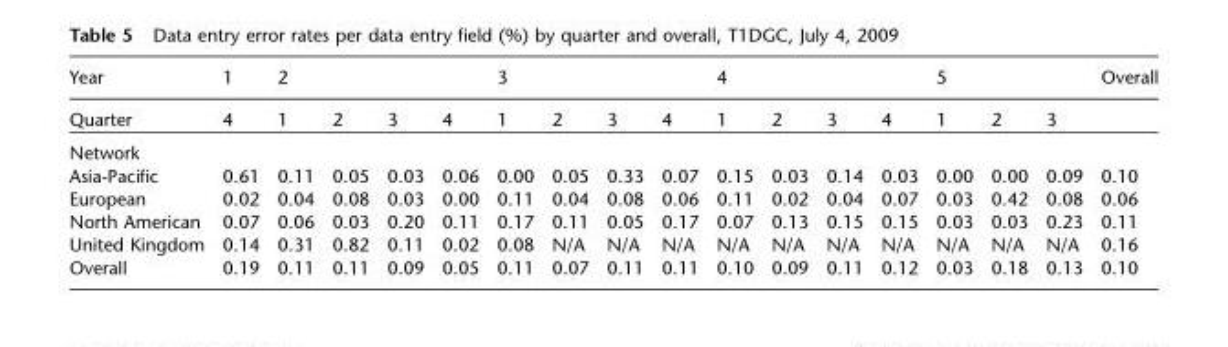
<table><thead><tr><td rowspan="2">Year Quarter</td><td rowspan="2">1 4</td><td colspan="4">2</td><td colspan="4">3</td><td colspan="4">4</td><td colspan="3">5</td><td rowspan="2">Overall</td></tr><tr><td>1</td><td>2</td><td>3</td><td>4</td><td>1</td><td>2</td><td>3</td><td>4</td><td>1</td><td>2</td><td>3</td><td>4</td><td>1</td><td>2</td><td>3</td></tr></thead><tbody><tr><td colspan="18">Network</td></tr><tr><td>Asia-Pacific</td><td>0.61</td><td>0.11</td><td>0.05</td><td>0.03</td><td>0.06</td><td>0.00</td><td>0.05</td><td>0.33</td><td>0.07</td><td>0.15</td><td>0.03</td><td>0.14</td><td>0.03</td><td>0.00</td><td>0.00</td><td>0.09</td><td>0.10</td></tr><tr><td>European</td><td>0.02</td><td>0.04</td><td>0.08</td><td>0.03</td><td>0.00</td><td>0.11</td><td>0.04</td><td>0.08</td><td>0.06</td><td>0.11</td><td>0.02</td><td>0.04</td><td>0.07</td><td>0.03</td><td>0.42</td><td>0.08</td><td>0.06</td></tr><tr><td>North American</td><td>0.07</td><td>0.06</td><td>0.03</td><td>0.20</td><td>0.11</td><td>0.17</td><td>0.11</td><td>0.05</td><td>0.17</td><td>0.07</td><td>0.13</td><td>0.15</td><td>0.15</td><td>0.03</td><td>0.03</td><td>0.23</td><td>0.11</td></tr><tr><td>United Kingdom</td><td>0.14</td><td>0.31</td><td>0.82</td><td>0.11</td><td>0.02</td><td>0.08</td><td>N/A</td><td>N/A</td><td>N/A</td><td>N/A</td><td>N/A</td><td>N/A</td><td>N/A</td><td>N/A</td><td>N/A</td><td>N/A</td><td>0.16</td></tr><tr><td>Overall</td><td>0.19</td><td>0.11</td><td>0.11</td><td>0.09</td><td>0.05</td><td>0.11</td><td>0.07</td><td>0.11</td><td>0.11</td><td>0.10</td><td>0.09</td><td>0.11</td><td>0.12</td><td>0.03</td><td>0.18</td><td>0.13</td><td>0.10</td></tr></tbody></table>